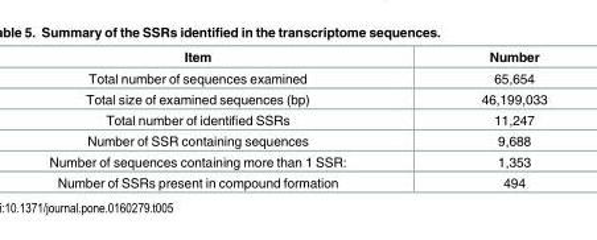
<table><thead><tr><td>Item</td><td>Number</td></tr></thead><tbody><tr><td>Total number of sequences examined</td><td>65,654</td></tr><tr><td>Total size of examined sequences (bp)</td><td>46,199,033</td></tr><tr><td>Total number of identified SSRs</td><td>11,247</td></tr><tr><td>Number of SSR containing sequences</td><td>9,688</td></tr><tr><td>Number of sequences containing more than 1 SSR:</td><td>1,353</td></tr><tr><td>Number of SSRs present in compound formation</td><td>494</td></tr></tbody></table>